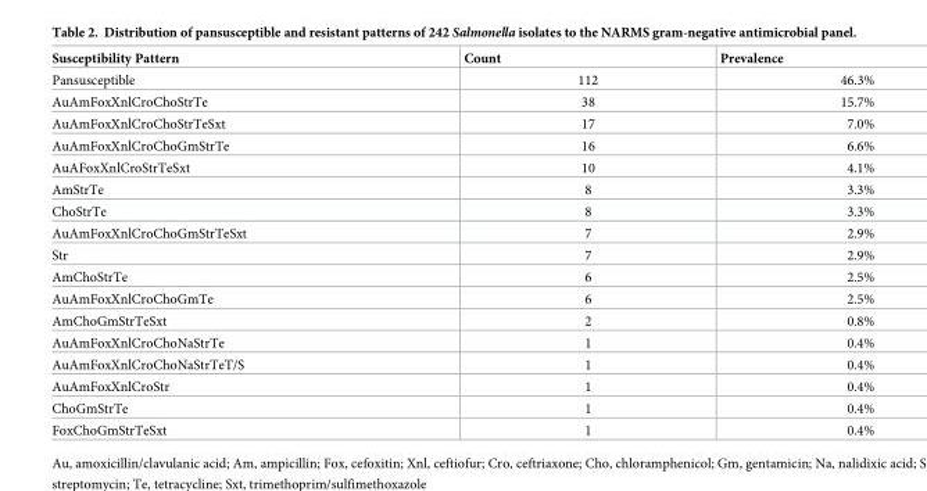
<table><thead><tr><td>Susceptibility Pattern</td><td>Count</td><td>Prevalence</td></tr></thead><tbody><tr><td>Pansusceptible</td><td>112</td><td>46.3%</td></tr><tr><td>AuAmFoxXnlCroChoStrTe</td><td>38</td><td>15.7%</td></tr><tr><td>AuAmFoxXnlCroChoStrTeSxt</td><td>17</td><td>7.0%</td></tr><tr><td>AuAmFoxXnlCroChoGmStrTe</td><td>16</td><td>6.6%</td></tr><tr><td>AuAFoxXnlCroStrTeSxt</td><td>10</td><td>4.1%</td></tr><tr><td>AmStrTe</td><td>8</td><td>3.3%</td></tr><tr><td>ChoStrTe</td><td>8</td><td>3.3%</td></tr><tr><td>AuAmFoxXnlCroChoGmStrTeSxt</td><td>7</td><td>2.9%</td></tr><tr><td>Str</td><td>7</td><td>2.9%</td></tr><tr><td>AmChoStrTe</td><td>6</td><td>2.5%</td></tr><tr><td>AuAmFoxXnlCroChoGmTe</td><td>6</td><td>2.5%</td></tr><tr><td>AmChoGmStrTeSxt</td><td>2</td><td>0.8%</td></tr><tr><td>AuAmFoxXnlCroChoNaStrTe</td><td>1</td><td>0.4%</td></tr><tr><td>AuAmFoxXnlCroChoNaStrTeT/S</td><td>1</td><td>0.4%</td></tr><tr><td>AuAmFoxXnlCroStr</td><td>1</td><td>0.4%</td></tr><tr><td>ChoGmStrTe</td><td>1</td><td>0.4%</td></tr><tr><td>FoxChoGmStrTeSxt</td><td>1</td><td>0.4%</td></tr></tbody></table>